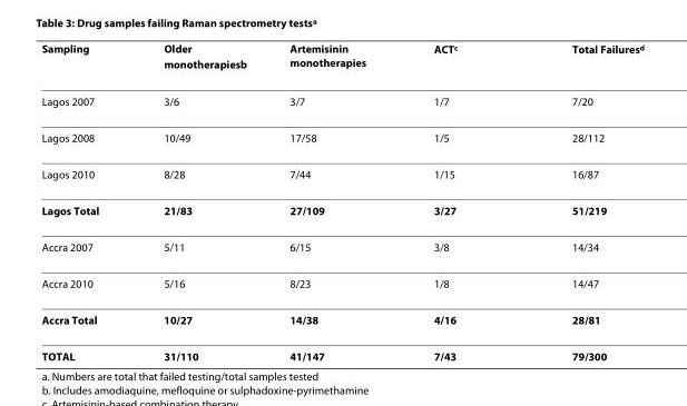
<table><thead><tr><td>Sampling</td><td>Older monotherapies<sup>b</sup></td><td>Artemisinin monotherapies</td><td>ACT<sup>c</sup></td><td>Total Failures<sup>d</sup></td></tr></thead><tbody><tr><td>Lagos 2007</td><td>3/6</td><td>3/7</td><td>1/7</td><td>7/20</td></tr><tr><td>Lagos 2008</td><td>10/49</td><td>17/58</td><td>1/5</td><td>28/112</td></tr><tr><td>Lagos 2010</td><td>8/28</td><td>7/44</td><td>1/15</td><td>16/87</td></tr><tr><td>Lagos Total</td><td>21/83</td><td>27/109</td><td>3/27</td><td>51/219</td></tr><tr><td>Accra 2007</td><td>5/11</td><td>6/15</td><td>3/8</td><td>14/34</td></tr><tr><td>Accra 2010</td><td>5/16</td><td>8/23</td><td>1/8</td><td>14/47</td></tr><tr><td>Accra Total</td><td>10/27</td><td>14/38</td><td>4/16</td><td>28/81</td></tr><tr><td>TOTAL</td><td>31/110</td><td>41/147</td><td>7/43</td><td>79/300</td></tr></tbody></table>